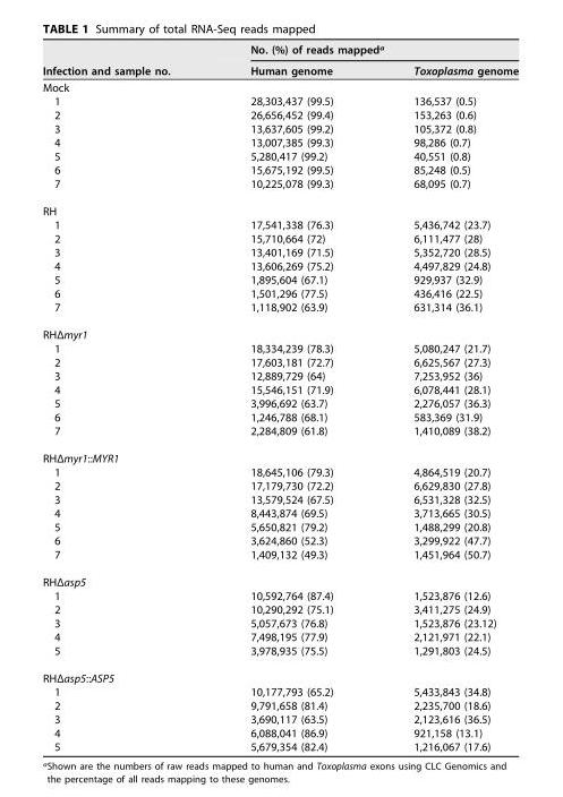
<table><thead><tr><td rowspan="2">Infection and sample no.</td><td colspan="2">No. (%) of reads mapped<sup>a</sup></td></tr><tr><td>Human genome</td><td>Toxoplasma genome</td></tr></thead><tbody><tr><td colspan="3">Mock</td></tr><tr><td>1</td><td>28,303,437 (99.5)</td><td>136,537 (0.5)</td></tr><tr><td>2</td><td>26,656,452 (99.4)</td><td>153,263 (0.6)</td></tr><tr><td>3</td><td>13,637,605 (99.2)</td><td>105,372 (0.8)</td></tr><tr><td>4</td><td>13,007,385 (99.3)</td><td>98,286 (0.7)</td></tr><tr><td>5</td><td>5,280,417 (99.2)</td><td>40,551 (0.8)</td></tr><tr><td>6</td><td>15,675,192 (99.5)</td><td>85,248 (0.5)</td></tr><tr><td>7</td><td>10,225,078 (99.3)</td><td>68,095 (0.7)</td></tr><tr><td colspan="3">RH</td></tr><tr><td>1</td><td>17,541,338 (76.3)</td><td>5,436,742 (23.7)</td></tr><tr><td>2</td><td>15,710,664 (72)</td><td>6,111,477 (28)</td></tr><tr><td>3</td><td>13,401,169 (71.5)</td><td>5,352,720 (28.5)</td></tr><tr><td>4</td><td>13,606,269 (75.2)</td><td>4,497,829 (24.8)</td></tr><tr><td>5</td><td>1,895,604 (67.1)</td><td>929,937 (32.9)</td></tr><tr><td>6</td><td>1,501,296 (77.5)</td><td>436,416 (22.5)</td></tr><tr><td>7</td><td>1,118,902 (63.9)</td><td>631,314 (36.1)</td></tr><tr><td colspan="3">RHΔmyr1</td></tr><tr><td>1</td><td>18,334,239 (78.3)</td><td>5,080,247 (21.7)</td></tr><tr><td>2</td><td>17,603,181 (72.7)</td><td>6,625,567 (27.3)</td></tr><tr><td>3</td><td>12,889,729 (64)</td><td>7,253,952 (36)</td></tr><tr><td>4</td><td>15,546,151 (71.9)</td><td>6,078,441 (28.1)</td></tr><tr><td>5</td><td>3,996,692 (63.7)</td><td>2,276,057 (36.3)</td></tr><tr><td>6</td><td>1,246,788 (68.1)</td><td>583,369 (31.9)</td></tr><tr><td>7</td><td>2,284,809 (61.8)</td><td>1,410,089 (38.2)</td></tr><tr><td colspan="3">RHΔmyr1::MYR1</td></tr><tr><td>1</td><td>18,645,106 (79.3)</td><td>4,864,519 (20.7)</td></tr><tr><td>2</td><td>17,179,730 (72.2)</td><td>6,629,830 (27.8)</td></tr><tr><td>3</td><td>13,579,524 (67.5)</td><td>6,531,328 (32.5)</td></tr><tr><td>4</td><td>8,443,874 (69.5)</td><td>3,713,665 (30.5)</td></tr><tr><td>5</td><td>5,650,821 (79.2)</td><td>1,488,299 (20.8)</td></tr><tr><td>6</td><td>3,624,860 (52.3)</td><td>3,299,922 (47.7)</td></tr><tr><td>7</td><td>1,409,132 (49.3)</td><td>1,451,964 (50.7)</td></tr><tr><td colspan="3">RHΔasp5</td></tr><tr><td>1</td><td>10,592,764 (87.4)</td><td>1,523,876 (12.6)</td></tr><tr><td>2</td><td>10,290,292 (75.1)</td><td>3,411,275 (24.9)</td></tr><tr><td>3</td><td>5,057,673 (76.8)</td><td>1,523,876 (23.12)</td></tr><tr><td>4</td><td>7,498,195 (77.9)</td><td>2,121,971 (22.1)</td></tr><tr><td>5</td><td>3,978,935 (75.5)</td><td>1,291,803 (24.5)</td></tr><tr><td colspan="3">RHΔasp5::ASP5</td></tr><tr><td>1</td><td>10,177,793 (65.2)</td><td>5,433,843 (34.8)</td></tr><tr><td>2</td><td>9,791,658 (81.4)</td><td>2,235,700 (18.6)</td></tr><tr><td>3</td><td>3,690,117 (63.5)</td><td>2,123,616 (36.5)</td></tr><tr><td>4</td><td>6,088,041 (86.9)</td><td>921,158 (13.1)</td></tr><tr><td>5</td><td>5,679,354 (82.4)</td><td>1,216,067 (17.6)</td></tr></tbody></table>